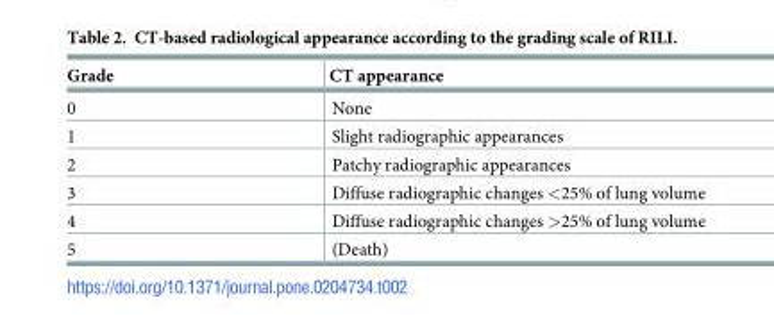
<table><thead><tr><td>Grade</td><td>CT appearance</td></tr></thead><tbody><tr><td>0</td><td>None</td></tr><tr><td>1</td><td>Slight radiographic appearances</td></tr><tr><td>2</td><td>Patchy radiographic appearances</td></tr><tr><td>3</td><td>Diffuse radiographic changes &lt;25% of lung volume</td></tr><tr><td>4</td><td>Diffuse radiographic changes &gt;25% of lung volume</td></tr><tr><td>5</td><td>(Death)</td></tr></tbody></table>